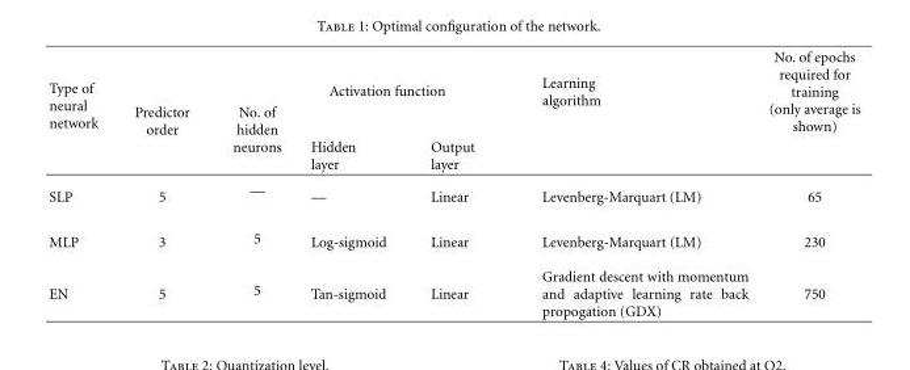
<table><thead><tr><td rowspan="2">Type of neural network</td><td rowspan="2">Predictor order</td><td rowspan="2">No. of hidden neurons</td><td colspan="2">Activation function</td><td rowspan="2">Learning algorithm</td><td rowspan="2">No. of epochs required for training (only average is shown)</td></tr><tr><td>Hidden layer</td><td>Output layer</td></tr></thead><tbody><tr><td>SLP</td><td>5</td><td>—</td><td>—</td><td>Linear</td><td>Levenberg-Marquart (LM)</td><td>65</td></tr><tr><td>MLP</td><td>3</td><td>5</td><td>Log-sigmoid</td><td>Linear</td><td>Levenberg-Marquart (LM)</td><td>230</td></tr><tr><td>EN</td><td>5</td><td>5</td><td>Tan-sigmoid</td><td>Linear</td><td>Gradient descent with momentum and adaptive learning rate back propogation (GDX)</td><td>750</td></tr></tbody></table>